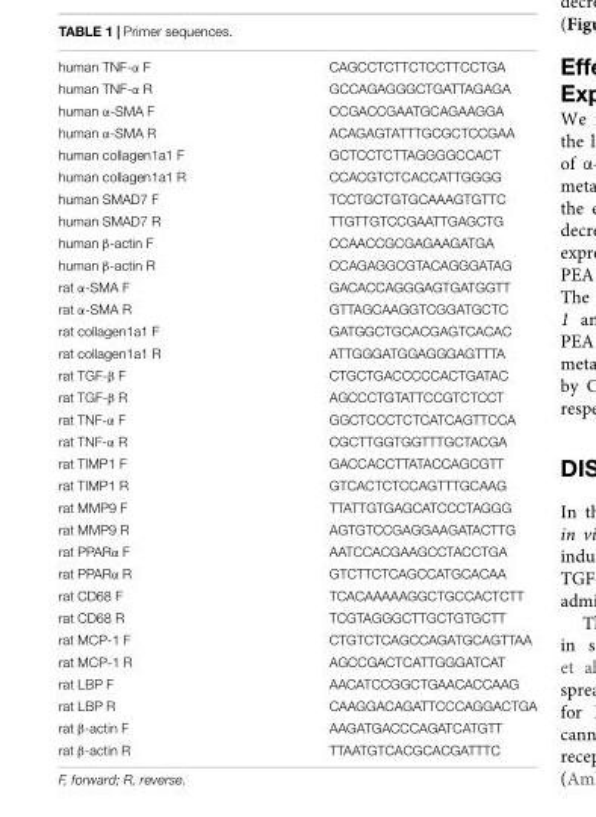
<table><tbody><tr><td>human TNF-α F</td><td>CAGCCTCTTCTCCTTCCTGA</td></tr><tr><td>human TNF-α R</td><td>GCCAGAGGGCTGATTAGAGA</td></tr><tr><td>human α-SMA F</td><td>CCGACCGAATGCAGAAGGA</td></tr><tr><td>human α-SMA R</td><td>ACAGAGTATTTGCGCTCCGAA</td></tr><tr><td>human collagen1a1 F</td><td>GCTCCTCTTAGGGGCCACT</td></tr><tr><td>human collagen1a1 R</td><td>CCACGTCTCACCATTGGGG</td></tr><tr><td>human SMAD7 F</td><td>TCCTGCTGTGCAAAGTGTTC</td></tr><tr><td>human SMAD7 R</td><td>TTGTTGTCCGAATTGAGCTG</td></tr><tr><td>human β-actin F</td><td>CCAACCGCGAGAAGATGA</td></tr><tr><td>human β-actin R</td><td>CCAGAGGCGTACAGGGATAG</td></tr><tr><td>rat α-SMA F</td><td>GACACCAGGGAGTGATGGTT</td></tr><tr><td>rat α-SMA R</td><td>GTTAGCAAGGTCGGATGCTC</td></tr><tr><td>rat collagen1a1 F</td><td>GATGGCTGCACGAGTCACAC</td></tr><tr><td>rat collagen1a1 R</td><td>ATTGGGATGGAGGGAGTTTA</td></tr><tr><td>rat TGF-β F</td><td>CTGCTGACCCCCACTGATAC</td></tr><tr><td>rat TGF-β R</td><td>AGCCCTGTATTCCGTCTCCT</td></tr><tr><td>rat TNF-α F</td><td>GGCTCCCTCTCATCAGTTCCA</td></tr><tr><td>rat TNF-α R</td><td>CGCTTGGTGGTTTGCTACGA</td></tr><tr><td>rat TIMP1 F</td><td>GACCACCTTATACCAGCGTT</td></tr><tr><td>rat TIMP1 R</td><td>GTCACTCTCCAGTTTGCAAG</td></tr><tr><td>rat MMP9 F</td><td>TTATTGTGAGCATCCCTAGGG</td></tr><tr><td>rat MMP9 R</td><td>AGTGTCCGAGGAAGATACTTG</td></tr><tr><td>rat PPARα F</td><td>AATCCACGAAGCCTACCTGA</td></tr><tr><td>rat PPARα R</td><td>GTCTTCTCAGCCATGCACAA</td></tr><tr><td>rat CD68 F</td><td>TCACAAAAAGGCTGCCACTCTT</td></tr><tr><td>rat CD68 R</td><td>TCGTAGGGCTTGCTGTGCTT</td></tr><tr><td>rat MCP-1 F</td><td>CTGTCTCAGCCAGATGCAGTTAA</td></tr><tr><td>rat MCP-1 R</td><td>AGCCGACTCATTGGGATCAT</td></tr><tr><td>rat LBP F</td><td>AACATCCGGCTGAACACCAAG</td></tr><tr><td>rat LBP R</td><td>CAAGGACAGATTCCCAGGACTGA</td></tr><tr><td>rat β-actin F</td><td>AAGATGACCCAGATCATGTT</td></tr><tr><td>rat β-actin R</td><td>TTAATGTCACGCACGATTTC</td></tr></tbody></table>